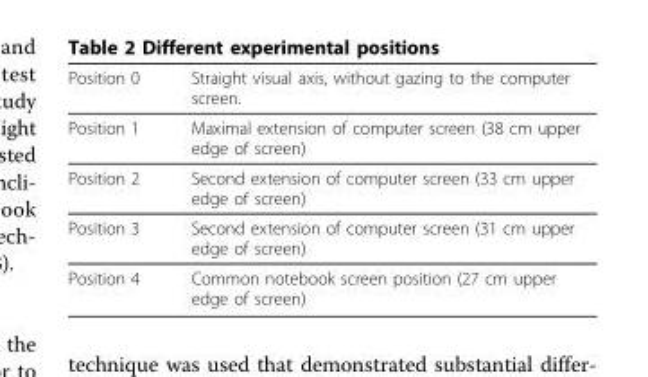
<table><thead><tr><td>Position 0</td><td>Straight visual axis, without gazing to the computer screen.</td></tr></thead><tbody><tr><td>Position 1</td><td>Maximal extension of computer screen (38 cm upper edge of screen)</td></tr><tr><td>Position 2</td><td>Second extension of computer screen (33 cm upper edge of screen)</td></tr><tr><td>Position 3</td><td>Second extension of computer screen (31 cm upper edge of screen)</td></tr><tr><td>Position 4</td><td>Common notebook screen position (27 cm upper edge of screen)</td></tr></tbody></table>